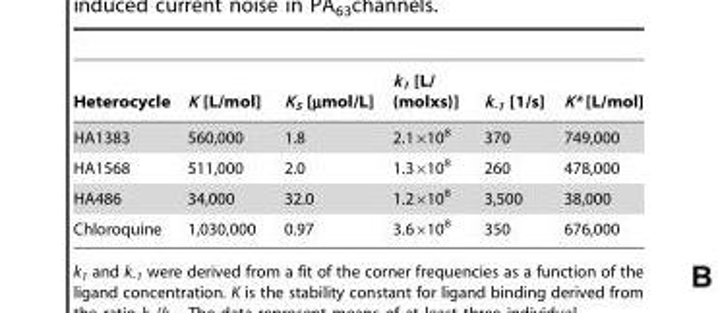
<table><thead><tr><td>Heterocycle</td><td>K [L/mol]</td><td>K<sub>S</sub> [µmol/L]</td><td>k<sub>1</sub> [L/ (molxs)]</td><td>k<sub>-1</sub> [1/s]</td><td>K* [L/mol]</td></tr></thead><tbody><tr><td>HA1383</td><td>560,000</td><td>1.8</td><td>2.1×10<sup>8</sup></td><td>370</td><td>749,000</td></tr><tr><td>HA1568</td><td>511,000</td><td>2.0</td><td>1.3×10<sup>8</sup></td><td>260</td><td>478,000</td></tr><tr><td>HA486</td><td>34,000</td><td>32.0</td><td>1.2×10<sup>8</sup></td><td>3,500</td><td>38,000</td></tr><tr><td>Chloroquine</td><td>1,030,000</td><td>0.97</td><td>3.6×10<sup>8</sup></td><td>350</td><td>676,000</td></tr></tbody></table>